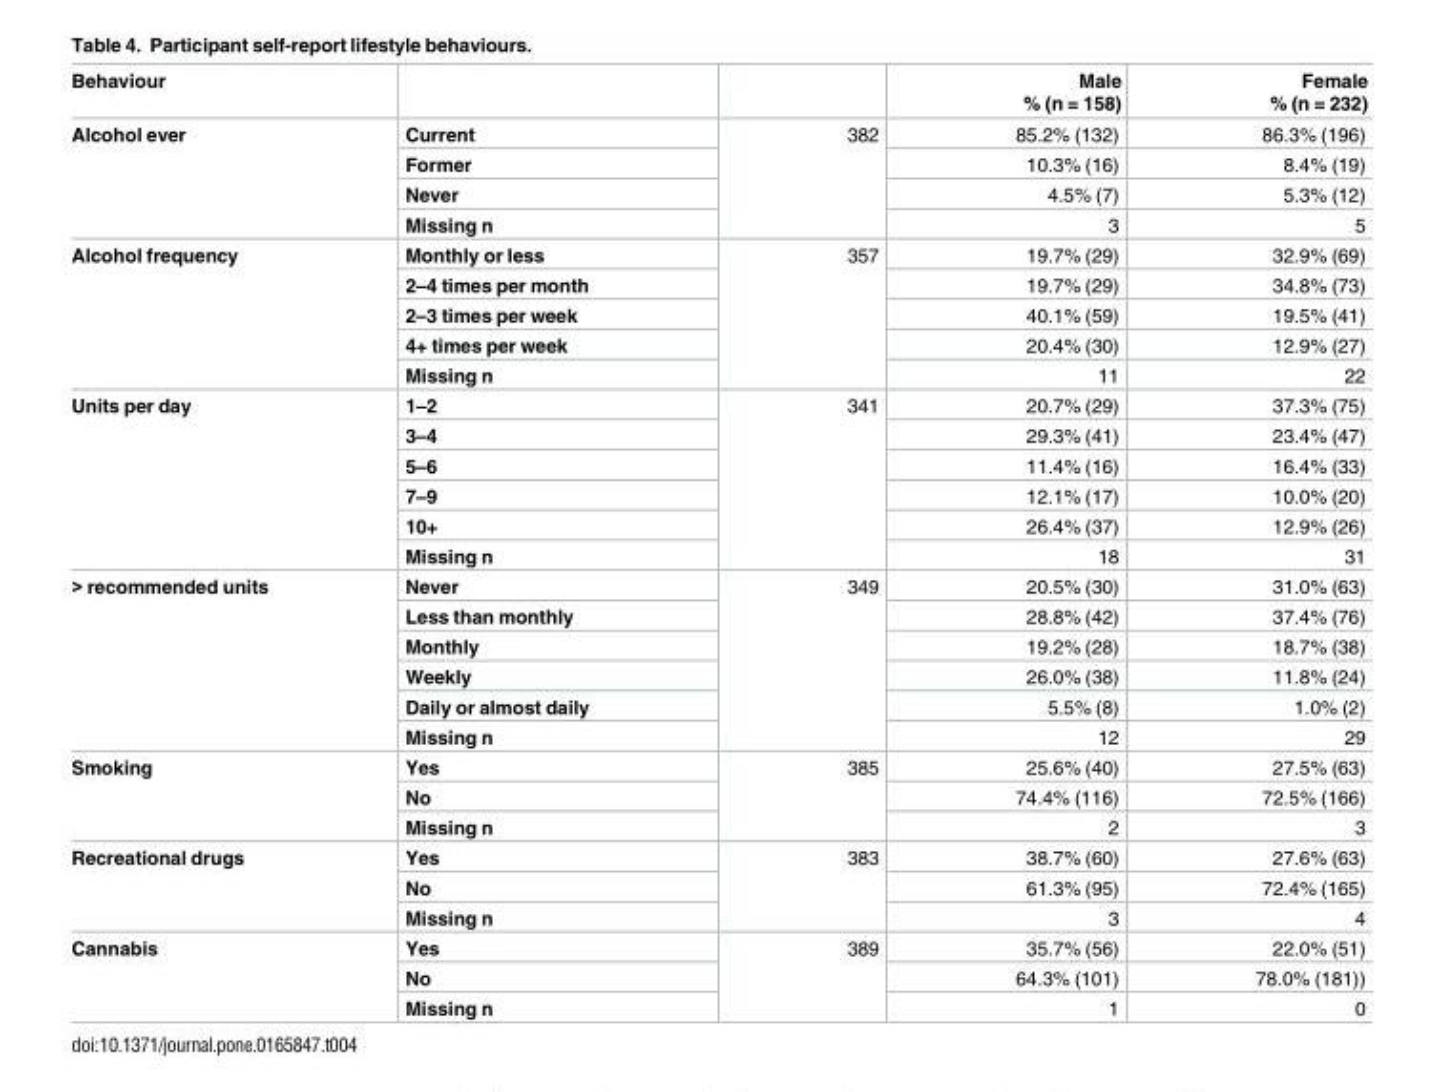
<table><thead><tr><td>Behaviour</td><td></td><td></td><td>Male % (n = 158)</td><td>Female % (n = 232)</td></tr></thead><tbody><tr><td rowspan="4">Alcohol ever</td><td>Current</td><td rowspan="4">382</td><td>85.2% (132)</td><td>86.3% (196)</td></tr><tr><td>Former</td><td>10.3% (16)</td><td>8.4% (19)</td></tr><tr><td>Never</td><td>4.5% (7)</td><td>5.3% (12)</td></tr><tr><td>Missing n</td><td>3</td><td>5</td></tr><tr><td rowspan="5">Alcohol frequency</td><td>Monthly or less</td><td rowspan="5">357</td><td>19.7% (29)</td><td>32.9% (69)</td></tr><tr><td>2–4 times per month</td><td>19.7% (29)</td><td>34.8% (73)</td></tr><tr><td>2–3 times per week</td><td>40.1% (59)</td><td>19.5% (41)</td></tr><tr><td>4+ times per week</td><td>20.4% (30)</td><td>12.9% (27)</td></tr><tr><td>Missing n</td><td>11</td><td>22</td></tr><tr><td rowspan="6">Units per day</td><td>1–2</td><td rowspan="6">341</td><td>20.7% (29)</td><td>37.3% (75)</td></tr><tr><td>3–4</td><td>29.3% (41)</td><td>23.4% (47)</td></tr><tr><td>5–6</td><td>11.4% (16)</td><td>16.4% (33)</td></tr><tr><td>7–9</td><td>12.1% (17)</td><td>10.0% (20)</td></tr><tr><td>10+</td><td>26.4% (37)</td><td>12.9% (26)</td></tr><tr><td>Missing n</td><td>18</td><td>31</td></tr><tr><td rowspan="6">&gt; recommended units</td><td>Never</td><td rowspan="6">349</td><td>20.5% (30)</td><td>31.0% (63)</td></tr><tr><td>Less than monthly</td><td>28.8% (42)</td><td>37.4% (76)</td></tr><tr><td>Monthly</td><td>19.2% (28)</td><td>18.7% (38)</td></tr><tr><td>Weekly</td><td>26.0% (38)</td><td>11.8% (24)</td></tr><tr><td>Daily or almost daily</td><td>5.5% (8)</td><td>1.0% (2)</td></tr><tr><td>Missing n</td><td>12</td><td>29</td></tr><tr><td rowspan="3">Smoking</td><td>Yes</td><td rowspan="3">385</td><td>25.6% (40)</td><td>27.5% (63)</td></tr><tr><td>No</td><td>74.4% (116)</td><td>72.5% (166)</td></tr><tr><td>Missing n</td><td>2</td><td>3</td></tr><tr><td rowspan="3">Recreational drugs</td><td>Yes</td><td rowspan="3">383</td><td>38.7% (60)</td><td>27.6% (63)</td></tr><tr><td>No</td><td>61.3% (95)</td><td>72.4% (165)</td></tr><tr><td>Missing n</td><td>3</td><td>4</td></tr><tr><td rowspan="3">Cannabis</td><td>Yes</td><td rowspan="3">389</td><td>35.7% (56)</td><td>22.0% (51)</td></tr><tr><td>No</td><td>64.3% (101)</td><td>78.0% (181))</td></tr><tr><td>Missing n</td><td>1</td><td>0</td></tr></tbody></table>